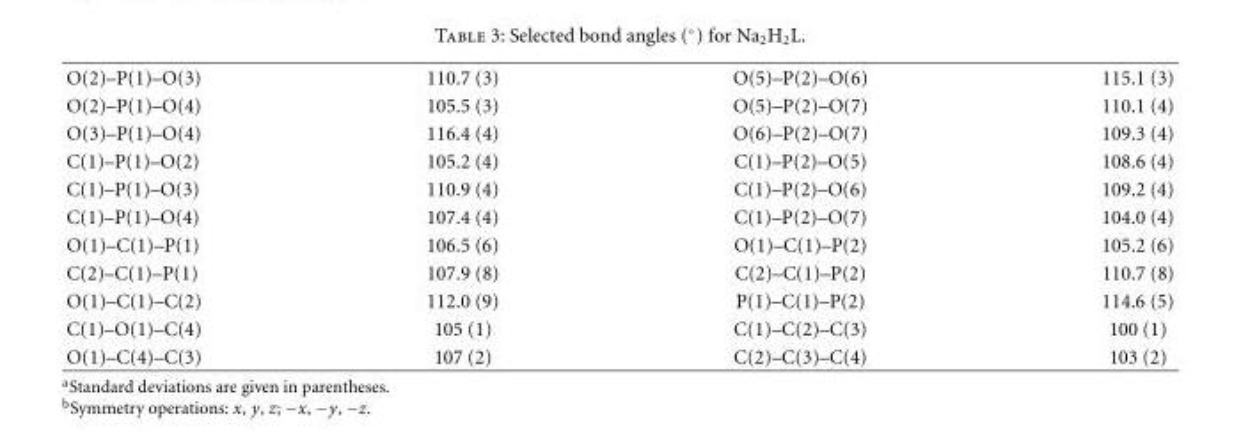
<table><tbody><tr><td>O(2)–P(1)–O(3)</td><td>110.7 (3)</td><td>O(5)–P(2)–O(6)</td><td>115.1 (3)</td></tr><tr><td>O(2)–P(1)–O(4)</td><td>105.5 (3)</td><td>O(5)–P(2)–O(7)</td><td>110.1 (4)</td></tr><tr><td>O(3)–P(1)–O(4)</td><td>116.4 (4)</td><td>O(6)–P(2)–O(7)</td><td>109.3 (4)</td></tr><tr><td>C(1)–P(1)–O(2)</td><td>105.2 (4)</td><td>C(1)–P(2)–O(5)</td><td>108.6 (4)</td></tr><tr><td>C(1)–P(1)–O(3)</td><td>110.9 (4)</td><td>C(1)–P(2)–O(6)</td><td>109.2 (4)</td></tr><tr><td>C(1)–P(1)–O(4)</td><td>107.4 (4)</td><td>C(1)–P(2)–O(7)</td><td>104.0 (4)</td></tr><tr><td>O(1)–C(1)–P(1)</td><td>106.5 (6)</td><td>O(1)–C(1)–P(2)</td><td>105.2 (6)</td></tr><tr><td>C(2)–C(1)–P(1)</td><td>107.9 (8)</td><td>C(2)–C(1)–P(2)</td><td>110.7 (8)</td></tr><tr><td>O(1)–C(1)–C(2)</td><td>112.0 (9)</td><td>P(1)–C(1)–P(2)</td><td>114.6 (5)</td></tr><tr><td>C(1)–O(1)–C(4)</td><td>105 (1)</td><td>C(1)–C(2)–C(3)</td><td>100 (1)</td></tr><tr><td>O(1)–C(4)–C(3)</td><td>107 (2)</td><td>C(2)–C(3)–C(4)</td><td>103 (2)</td></tr></tbody></table>